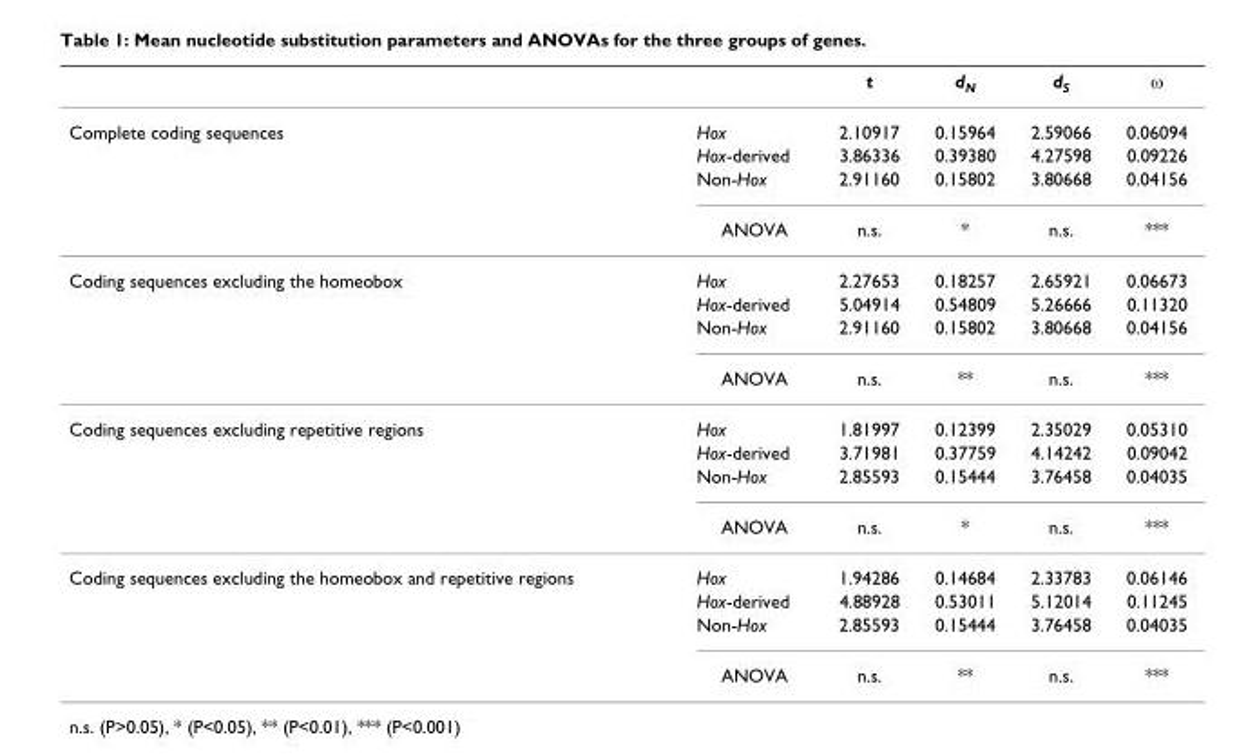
<table><thead><tr><td></td><td></td><td>t</td><td>d<sub>N</sub></td><td>d<sub>S</sub></td><td>ω</td></tr></thead><tbody><tr><td rowspan="4">Complete coding sequences</td><td>Hox</td><td>2.10917</td><td>0.15964</td><td>2.59066</td><td>0.06094</td></tr><tr><td>Hox-derived</td><td>3.86336</td><td>0.39380</td><td>4.27598</td><td>0.09226</td></tr><tr><td>Non-Hox</td><td>2.91160</td><td>0.15802</td><td>3.80668</td><td>0.04156</td></tr><tr><td>ANOVA</td><td>n.s.</td><td>*</td><td>n.s.</td><td>***</td></tr><tr><td rowspan="4">Coding sequences excluding the homeobox</td><td>Hox</td><td>2.27653</td><td>0.18257</td><td>2.65921</td><td>0.06673</td></tr><tr><td>Hox-derived</td><td>5.04914</td><td>0.54809</td><td>5.26666</td><td>0.11320</td></tr><tr><td>Non-Hox</td><td>2.91160</td><td>0.15802</td><td>3.80668</td><td>0.04156</td></tr><tr><td>ANOVA</td><td>n.s.</td><td>**</td><td>n.s.</td><td>***</td></tr><tr><td rowspan="4">Coding sequences excluding repetitive regions</td><td>Hox</td><td>1.81997</td><td>0.12399</td><td>2.35029</td><td>0.05310</td></tr><tr><td>Hox-derived</td><td>3.71981</td><td>0.37759</td><td>4.14242</td><td>0.09042</td></tr><tr><td>Non-Hox</td><td>2.85593</td><td>0.15444</td><td>3.76458</td><td>0.04035</td></tr><tr><td>ANOVA</td><td>n.s.</td><td>*</td><td>n.s.</td><td>***</td></tr><tr><td rowspan="4">Coding sequences excluding the homeobox and repetitive regions</td><td>Hox</td><td>1.94286</td><td>0.14684</td><td>2.33783</td><td>0.06146</td></tr><tr><td>Hox-derived</td><td>4.88928</td><td>0.53011</td><td>5.12014</td><td>0.11245</td></tr><tr><td>Non-Hox</td><td>2.85593</td><td>0.15444</td><td>3.76458</td><td>0.04035</td></tr><tr><td>ANOVA</td><td>n.s.</td><td>**</td><td>n.s.</td><td>***</td></tr></tbody></table>